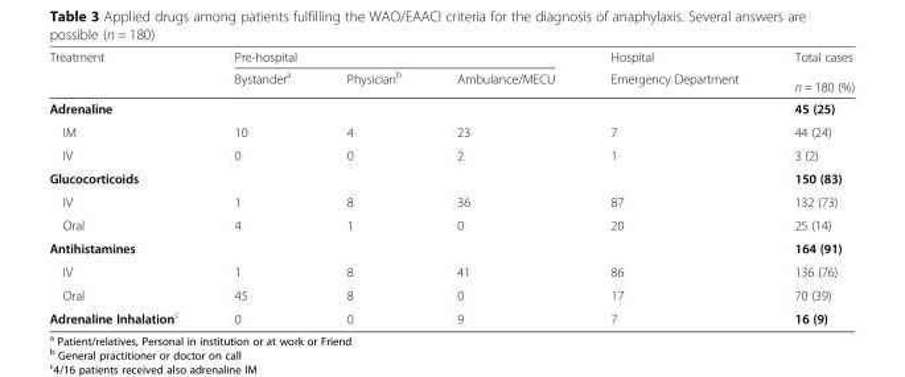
<table><thead><tr><td rowspan="2">Treatment</td><td colspan="3">Pre-hospital</td><td rowspan="2">Hospital Emergency Department</td><td rowspan="2">Total cases n = 180 (%)</td></tr><tr><td>Bystander<sup>a</sup></td><td>Physician<sup>b</sup></td><td>Ambulance/MECU</td></tr></thead><tbody><tr><td>Adrenaline</td><td></td><td></td><td></td><td></td><td>45 (25)</td></tr><tr><td>IM</td><td>10</td><td>4</td><td>23</td><td>7</td><td>44 (24)</td></tr><tr><td>IV</td><td>0</td><td>0</td><td>2</td><td>1</td><td>3 (2)</td></tr><tr><td>Glucocorticoids</td><td></td><td></td><td></td><td></td><td>150 (83)</td></tr><tr><td>IV</td><td>1</td><td>8</td><td>36</td><td>87</td><td>132 (73)</td></tr><tr><td>Oral</td><td>4</td><td>1</td><td>0</td><td>20</td><td>25 (14)</td></tr><tr><td>Antihistamines</td><td></td><td></td><td></td><td></td><td>164 (91)</td></tr><tr><td>IV</td><td>1</td><td>8</td><td>41</td><td>86</td><td>136 (76)</td></tr><tr><td>Oral</td><td>45</td><td>8</td><td>0</td><td>17</td><td>70 (39)</td></tr><tr><td>Adrenaline Inhalation<sup>c</sup></td><td>0</td><td>0</td><td>9</td><td>7</td><td>16 (9)</td></tr></tbody></table>